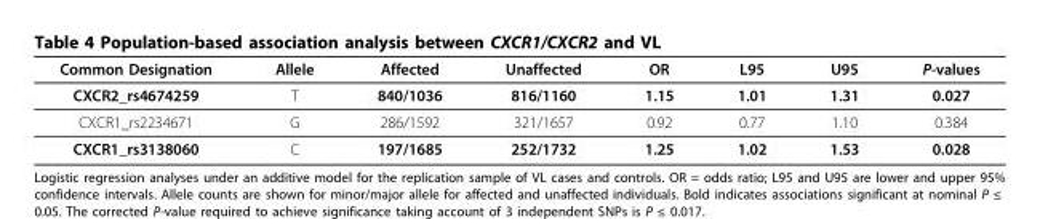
<table><thead><tr><td>Common Designation</td><td>Allele</td><td>Affected</td><td>Unaffected</td><td>OR</td><td>L95</td><td>U95</td><td>P-values</td></tr></thead><tbody><tr><td>CXCR2_rs4674259</td><td>T</td><td>840/1036</td><td>816/1160</td><td>1.15</td><td>1.01</td><td>1.31</td><td>0.027</td></tr><tr><td>CXCR1_rs2234671</td><td>G</td><td>286/1592</td><td>321/1657</td><td>0.92</td><td>0.77</td><td>1.10</td><td>0.384</td></tr><tr><td>CXCR1_rs3138060</td><td>C</td><td>197/1685</td><td>252/1732</td><td>1.25</td><td>1.02</td><td>1.53</td><td>0.028</td></tr></tbody></table>